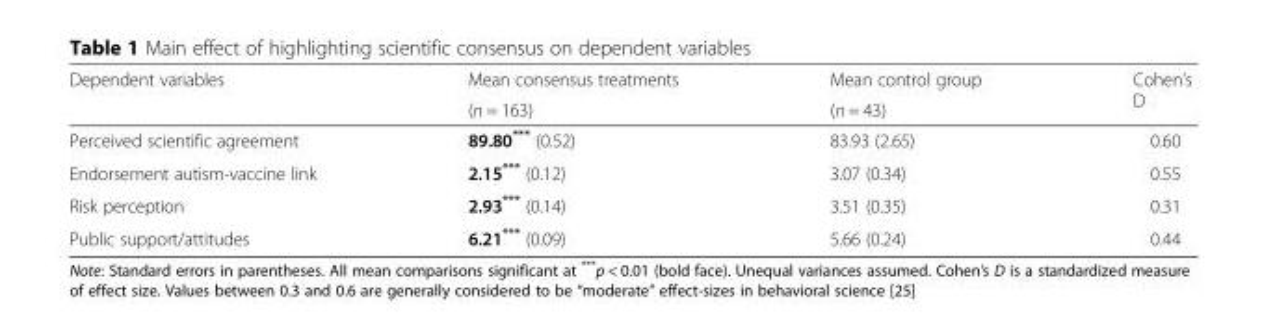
<table><thead><tr><td rowspan="2">Dependent variables</td><td rowspan="2">Mean consensus treatments (n = 163)</td><td rowspan="2">Mean control group (n = 43)</td><td rowspan="2">Cohen’s D</td></tr><tr></tr></thead><tbody><tr><td>Perceived scientific agreement</td><td>89.80*** (0.52)</td><td>83.93 (2.65)</td><td>0.60</td></tr><tr><td>Endorsement autism-vaccine link</td><td>2.15*** (0.12)</td><td>3.07 (0.34)</td><td>0.55</td></tr><tr><td>Risk perception</td><td>2.93*** (0.14)</td><td>3.51 (0.35)</td><td>0.31</td></tr><tr><td>Public support/attitudes</td><td>6.21*** (0.09)</td><td>5.66 (0.24)</td><td>0.44</td></tr></tbody></table>